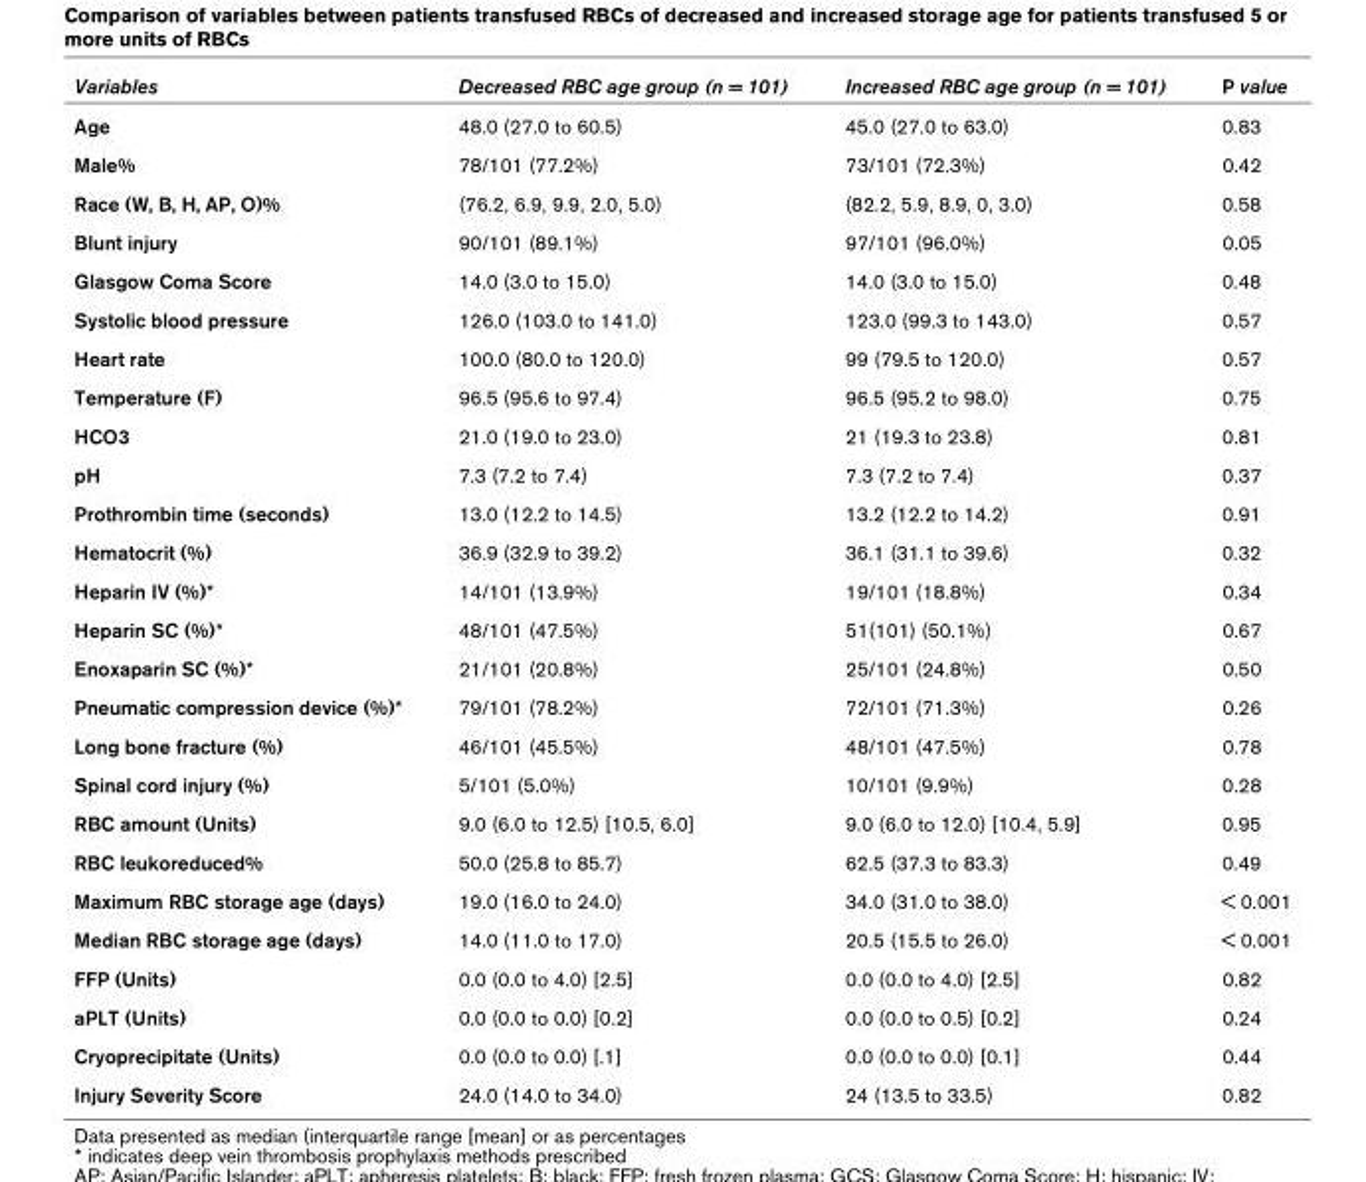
<table><thead><tr><td>Variables</td><td>Decreased RBC age group (n = 101)</td><td>Increased RBC age group (n = 101)</td><td>P value</td></tr></thead><tbody><tr><td>Age</td><td>48.0 (27.0 to 60.5)</td><td>45.0 (27.0 to 63.0)</td><td>0.83</td></tr><tr><td>Male%</td><td>78/101 (77.2%)</td><td>73/101 (72.3%)</td><td>0.42</td></tr><tr><td>Race (W, B, H, AP, O)%</td><td>(76.2, 6.9, 9.9, 2.0, 5.0)</td><td>(82.2, 5.9, 8.9, 0, 3.0)</td><td>0.58</td></tr><tr><td>Blunt injury</td><td>90/101 (89.1%)</td><td>97/101 (96.0%)</td><td>0.05</td></tr><tr><td>Glasgow Coma Score</td><td>14.0 (3.0 to 15.0)</td><td>14.0 (3.0 to 15.0)</td><td>0.48</td></tr><tr><td>Systolic blood pressure</td><td>126.0 (103.0 to 141.0)</td><td>123.0 (99.3 to 143.0)</td><td>0.57</td></tr><tr><td>Heart rate</td><td>100.0 (80.0 to 120.0)</td><td>99 (79.5 to 120.0)</td><td>0.57</td></tr><tr><td>Temperature (F)</td><td>96.5 (95.6 to 97.4)</td><td>96.5 (95.2 to 98.0)</td><td>0.75</td></tr><tr><td>HCO3</td><td>21.0 (19.0 to 23.0)</td><td>21 (19.3 to 23.8)</td><td>0.81</td></tr><tr><td>pH</td><td>7.3 (7.2 to 7.4)</td><td>7.3 (7.2 to 7.4)</td><td>0.37</td></tr><tr><td>Prothrombin time (seconds)</td><td>13.0 (12.2 to 14.5)</td><td>13.2 (12.2 to 14.2)</td><td>0.91</td></tr><tr><td>Hematocrit (%)</td><td>36.9 (32.9 to 39.2)</td><td>36.1 (31.1 to 39.6)</td><td>0.32</td></tr><tr><td>Heparin IV (%)*</td><td>14/101 (13.9%)</td><td>19/101 (18.8%)</td><td>0.34</td></tr><tr><td>Heparin SC (%)*</td><td>48/101 (47.5%)</td><td>51(101) (50.1%)</td><td>0.67</td></tr><tr><td>Enoxaparin SC (%)*</td><td>21/101 (20.8%)</td><td>25/101 (24.8%)</td><td>0.50</td></tr><tr><td>Pneumatic compression device (%)*</td><td>79/101 (78.2%)</td><td>72/101 (71.3%)</td><td>0.26</td></tr><tr><td>Long bone fracture (%)</td><td>46/101 (45.5%)</td><td>48/101 (47.5%)</td><td>0.78</td></tr><tr><td>Spinal cord injury (%)</td><td>5/101 (5.0%)</td><td>10/101 (9.9%)</td><td>0.28</td></tr><tr><td>RBC amount (Units)</td><td>9.0 (6.0 to 12.5) [10.5, 6.0]</td><td>9.0 (6.0 to 12.0) [10.4, 5.9]</td><td>0.95</td></tr><tr><td>RBC leukoreduced%</td><td>50.0 (25.8 to 85.7)</td><td>62.5 (37.3 to 83.3)</td><td>0.49</td></tr><tr><td>Maximum RBC storage age (days)</td><td>19.0 (16.0 to 24.0)</td><td>34.0 (31.0 to 38.0)</td><td>&lt; 0.001</td></tr><tr><td>Median RBC storage age (days)</td><td>14.0 (11.0 to 17.0)</td><td>20.5 (15.5 to 26.0)</td><td>&lt; 0.001</td></tr><tr><td>FFP (Units)</td><td>0.0 (0.0 to 4.0) [2.5]</td><td>0.0 (0.0 to 4.0) [2.5]</td><td>0.82</td></tr><tr><td>aPLT (Units)</td><td>0.0 (0.0 to 0.0) [0.2]</td><td>0.0 (0.0 to 0.5) [0.2]</td><td>0.24</td></tr><tr><td>Cryoprecipitate (Units)</td><td>0.0 (0.0 to 0.0) [.1]</td><td>0.0 (0.0 to 0.0) [0.1]</td><td>0.44</td></tr><tr><td>Injury Severity Score</td><td>24.0 (14.0 to 34.0)</td><td>24 (13.5 to 33.5)</td><td>0.82</td></tr></tbody></table>